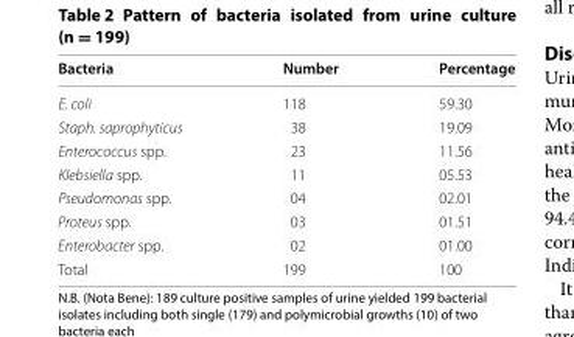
<table><thead><tr><td>Bacteria</td><td>Number</td><td>Percentage</td></tr></thead><tbody><tr><td>E. coli</td><td>118</td><td>59.30</td></tr><tr><td>Staph. saprophyticus</td><td>38</td><td>19.09</td></tr><tr><td>Enterococcus spp.</td><td>23</td><td>11.56</td></tr><tr><td>Klebsiella spp.</td><td>11</td><td>05.53</td></tr><tr><td>Pseudomonas spp.</td><td>04</td><td>02.01</td></tr><tr><td>Proteus spp.</td><td>03</td><td>01.51</td></tr><tr><td>Enterobacter spp.</td><td>02</td><td>01.00</td></tr><tr><td>Total</td><td>199</td><td>100</td></tr></tbody></table>